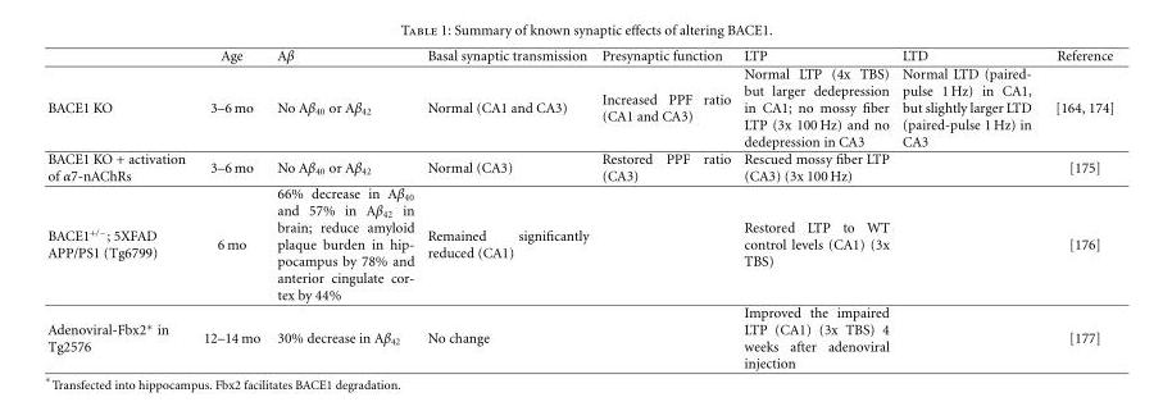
<table><thead><tr><td></td><td>Age</td><td>Aβ</td><td>Basal synaptic transmission</td><td>Presynaptic function</td><td>LTP</td><td>LTD</td><td>Reference</td></tr></thead><tbody><tr><td>BACE1 KO</td><td>3–6 mo</td><td>No Aβ<sub>40</sub> or Aβ<sub>42</sub></td><td>Normal (CA1 and CA3)</td><td>Increased PPF ratio (CA1 and CA3)</td><td>Normal LTP (4x TBS) but larger dedepression in CA1; no mossy fiber LTP (3x 100 Hz) and no dedepression in CA3</td><td>Normal LTD (paired- pulse 1 Hz) in CA1, but slightly larger LTD (paired-pulse 1 Hz) in CA3</td><td>[164, 174]</td></tr><tr><td>BACE1 KO + activation of α7-nAChRs</td><td>3–6 mo</td><td>No Aβ<sub>40</sub> or Aβ<sub>42</sub></td><td>Normal (CA3)</td><td>Restored PPF ratio (CA3)</td><td>Rescued mossy fiber LTP (CA3) (3x 100 Hz)</td><td></td><td>[175]</td></tr><tr><td>BACE1<sup>+/−</sup>; 5XFAD APP/PS1 (Tg6799)</td><td>6 mo</td><td>66% decrease in Aβ40 and 57% in Aβ42 in brain; reduce amyloid plaque burden in hip- pocampus by 78% and anterior cingulate cor- tex by 44%</td><td>Remained significantly reduced (CA1)</td><td></td><td>Restored LTP to WT control levels (CA1) (3x TBS)</td><td></td><td>[176]</td></tr><tr><td>Adenoviral-Fbx2∗ in Tg2576</td><td>12–14 mo</td><td>30% decrease in Aβ<sub>42</sub></td><td>No change</td><td></td><td>Improved the impaired LTP (CA1) (3x TBS) 4 weeks after adenoviral injection</td><td></td><td>[177]</td></tr></tbody></table>